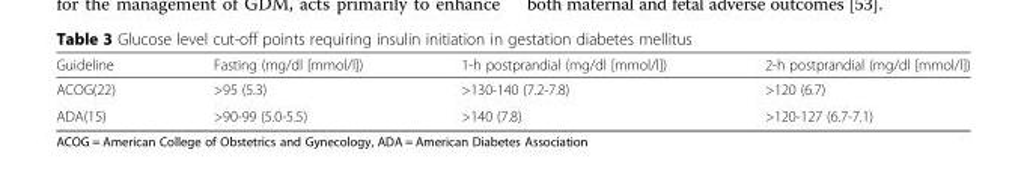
<table><thead><tr><td>Guideline</td><td>Fasting (mg/dl [mmol/l])</td><td>1-h postprandial (mg/dl [mmol/l])</td><td>2-h postprandial (mg/dl [mmol/l])</td></tr></thead><tbody><tr><td>ACOG(22)</td><td>&gt;95 (5.3)</td><td>&gt;130-140 (7.2-7.8)</td><td>&gt;120 (6.7)</td></tr><tr><td>ADA(15)</td><td>&gt;90-99 (5.0-5.5)</td><td>&gt;140 (7.8)</td><td>&gt;120-127 (6.7-7.1)</td></tr></tbody></table>